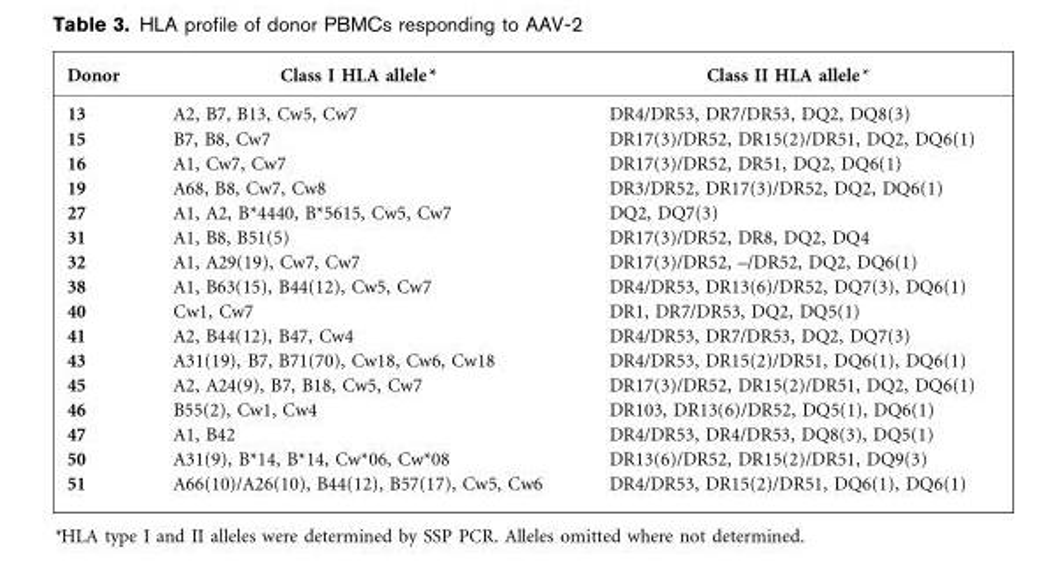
<table><thead><tr><td>Donor</td><td>Class I HLA allele*</td><td>Class II HLA allele*</td></tr></thead><tbody><tr><td>13</td><td>A2, B7, B13, Cw5, Cw7</td><td>DR4/DR53, DR7/DR53, DQ2, DQ8(3)</td></tr><tr><td>15</td><td>B7, B8, Cw7</td><td>DR17(3)/DR52, DR15(2)/DR51, DQ2, DQ6(1)</td></tr><tr><td>16</td><td>A1, Cw7, Cw7</td><td>DR17(3)/DR52, DR51, DQ2, DQ6(1)</td></tr><tr><td>19</td><td>A68, B8, Cw7, Cw8</td><td>DR3/DR52, DR17(3)/DR52, DQ2, DQ6(1)</td></tr><tr><td>27</td><td>A1, A2, B*4440, B*5615, Cw5, Cw7</td><td>DQ2, DQ7(3)</td></tr><tr><td>31</td><td>A1, B8, B51(5)</td><td>DR17(3)/DR52, DR8, DQ2, DQ4</td></tr><tr><td>32</td><td>A1, A29(19), Cw7, Cw7</td><td>DR17(3)/DR52, –/DR52, DQ2, DQ6(1)</td></tr><tr><td>38</td><td>A1, B63(15), B44(12), Cw5, Cw7</td><td>DR4/DR53, DR13(6)/DR52, DQ7(3), DQ6(1)</td></tr><tr><td>40</td><td>Cw1, Cw7</td><td>DR1, DR7/DR53, DQ2, DQ5(1)</td></tr><tr><td>41</td><td>A2, B44(12), B47, Cw4</td><td>DR4/DR53, DR7/DR53, DQ2, DQ7(3)</td></tr><tr><td>43</td><td>A31(19), B7, B71(70), Cw18, Cw6, Cw18</td><td>DR4/DR53, DR15(2)/DR51, DQ6(1), DQ6(1)</td></tr><tr><td>45</td><td>A2, A24(9), B7, B18, Cw5, Cw7</td><td>DR17(3)/DR52, DR15(2)/DR51, DQ2, DQ6(1)</td></tr><tr><td>46</td><td>B55(2), Cw1, Cw4</td><td>DR103, DR13(6)/DR52, DQ5(1), DQ6(1)</td></tr><tr><td>47</td><td>A1, B42</td><td>DR4/DR53, DR4/DR53, DQ8(3), DQ5(1)</td></tr><tr><td>50</td><td>A31(9), B*14, B*14, Cw*06, Cw*08</td><td>DR13(6)/DR52, DR15(2)/DR51, DQ9(3)</td></tr><tr><td>51</td><td>A66(10)/A26(10), B44(12), B57(17), Cw5, Cw6</td><td>DR4/DR53, DR15(2)/DR51, DQ6(1), DQ6(1)</td></tr></tbody></table>